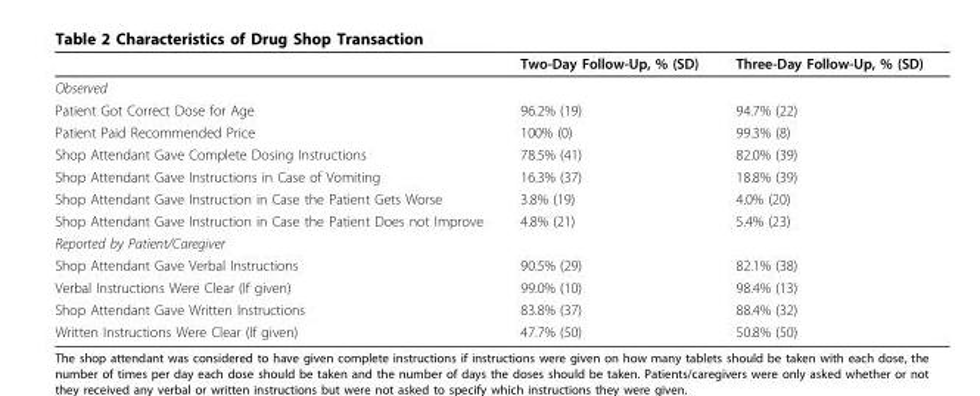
<table><thead><tr><td></td><td>Two-Day Follow-Up, % (SD)</td><td>Three-Day Follow-Up, % (SD)</td></tr></thead><tbody><tr><td colspan="3">Observed</td></tr><tr><td>Patient Got Correct Dose for Age</td><td>96.2% (19)</td><td>94.7% (22)</td></tr><tr><td>Patient Paid Recommended Price</td><td>100% (0)</td><td>99.3% (8)</td></tr><tr><td>Shop Attendant Gave Complete Dosing Instructions</td><td>78.5% (41)</td><td>82.0% (39)</td></tr><tr><td>Shop Attendant Gave Instructions in Case of Vomiting</td><td>16.3% (37)</td><td>18.8% (39)</td></tr><tr><td>Shop Attendant Gave Instruction in Case the Patient Gets Worse</td><td>3.8% (19)</td><td>4.0% (20)</td></tr><tr><td>Shop Attendant Gave Instruction in Case the Patient Does not Improve</td><td>4.8% (21)</td><td>5.4% (23)</td></tr><tr><td colspan="3">Reported by Patient/Caregiver</td></tr><tr><td>Shop Attendant Gave Verbal Instructions</td><td>90.5% (29)</td><td>82.1% (38)</td></tr><tr><td>Verbal Instructions Were Clear (If given)</td><td>99.0% (10)</td><td>98.4% (13)</td></tr><tr><td>Shop Attendant Gave Written Instructions</td><td>83.8% (37)</td><td>88.4% (32)</td></tr><tr><td>Written Instructions Were Clear (If given)</td><td>47.7% (50)</td><td>50.8% (50)</td></tr></tbody></table>